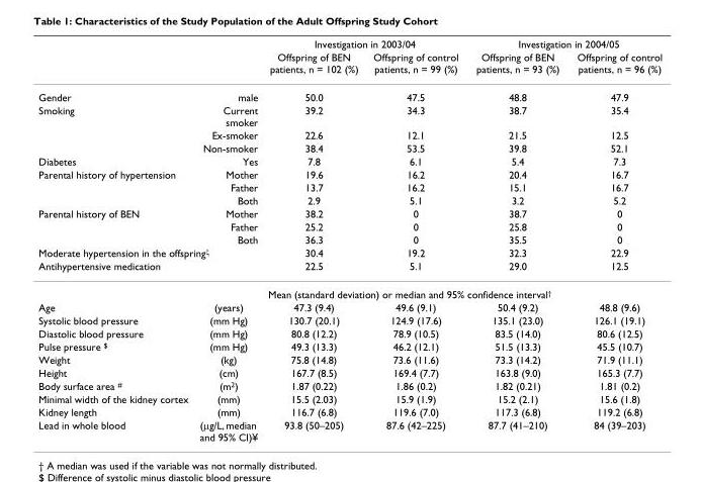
<table><thead><tr><td rowspan="2"></td><td rowspan="2"></td><td colspan="2">Investigation in 2003/04</td><td colspan="2">Investigation in 2004/05</td></tr><tr><td>Offspring of BEN patients, n = 102 (%)</td><td>Offspring of control patients, n = 99 (%)</td><td>Offspring of BEN patients, n = 93 (%)</td><td>Offspring of control patients, n = 96 (%)</td></tr></thead><tbody><tr><td>Gender</td><td>male</td><td>50.0</td><td>47.5</td><td>48.8</td><td>47.9</td></tr><tr><td rowspan="3">Smoking</td><td>Current smoker</td><td>39.2</td><td>34.3</td><td>38.7</td><td>35.4</td></tr><tr><td>Ex-smoker</td><td>22.6</td><td>12.1</td><td>21.5</td><td>12.5</td></tr><tr><td>Non-smoker</td><td>38.4</td><td>53.5</td><td>39.8</td><td>52.1</td></tr><tr><td>Diabetes</td><td>Yes</td><td>7.8</td><td>6.1</td><td>5.4</td><td>7.3</td></tr><tr><td rowspan="3">Parental history of hypertension</td><td>Mother</td><td>19.6</td><td>16.2</td><td>20.4</td><td>16.7</td></tr><tr><td>Father</td><td>13.7</td><td>16.2</td><td>15.1</td><td>16.7</td></tr><tr><td>Both</td><td>2.9</td><td>5.1</td><td>3.2</td><td>5.2</td></tr><tr><td rowspan="3">Parental history of BEN</td><td>Mother</td><td>38.2</td><td>0</td><td>38.7</td><td>0</td></tr><tr><td>Father</td><td>25.2</td><td>0</td><td>25.8</td><td>0</td></tr><tr><td>Both</td><td>36.3</td><td>0</td><td>35.5</td><td>0</td></tr><tr><td colspan="2">Moderate hypertension in the offspring<sup>ξ</sup></td><td>30.4</td><td>19.2</td><td>32.3</td><td>22.9</td></tr><tr><td colspan="2">Antihypertensive medication</td><td>22.5</td><td>5.1</td><td>29.0</td><td>12.5</td></tr><tr><td></td><td></td><td colspan="4">Mean (standard deviation) or median and 95% confidence interval<sup>†</sup></td></tr><tr><td>Age</td><td>(years)</td><td>47.3 (9.4)</td><td>49.6 (9.1)</td><td>50.4 (9.2)</td><td>48.8 (9.6)</td></tr><tr><td>Systolic blood pressure</td><td>(mm Hg)</td><td>130.7 (20.1)</td><td>124.9 (17.6)</td><td>135.1 (23.0)</td><td>126.1 (19.1)</td></tr><tr><td>Diastolic blood pressure</td><td>(mm Hg)</td><td>80.8 (12.2)</td><td>78.9 (10.5)</td><td>83.5 (14.0)</td><td>80.6 (12.5)</td></tr><tr><td>Pulse pressure <sup>$</sup></td><td>(mm Hg)</td><td>49.3 (13.3)</td><td>46.2 (12.1)</td><td>51.5 (13.3)</td><td>45.5 (10.7)</td></tr><tr><td>Weight</td><td>(kg)</td><td>75.8 (14.8)</td><td>73.6 (11.6)</td><td>73.3 (14.2)</td><td>71.9 (11.1)</td></tr><tr><td>Height</td><td>(cm)</td><td>167.7 (8.5)</td><td>169.4 (7.7)</td><td>163.8 (9.0)</td><td>165.3 (7.7)</td></tr><tr><td>Body surface area <sup>#</sup></td><td>(m<sup>2</sup>)</td><td>1.87 (0.22)</td><td>1.86 (0.2)</td><td>1.82 (0.21)</td><td>1.81 (0.2)</td></tr><tr><td>Minimal width of the kidney cortex</td><td>(mm)</td><td>15.5 (2.03)</td><td>15.9 (1.9)</td><td>15.2 (2.1)</td><td>15.6 (1.8)</td></tr><tr><td>Kidney length</td><td>(mm)</td><td>116.7 (6.8)</td><td>119.6 (7.0)</td><td>117.3 (6.8)</td><td>119.2 (6.8)</td></tr><tr><td>Lead in whole blood</td><td>(µg/L, median and 95% CI)¥</td><td>93.8 (50–205)</td><td>87.6 (42–225)</td><td>87.7 (41–210)</td><td>84 (39–203)</td></tr></tbody></table>